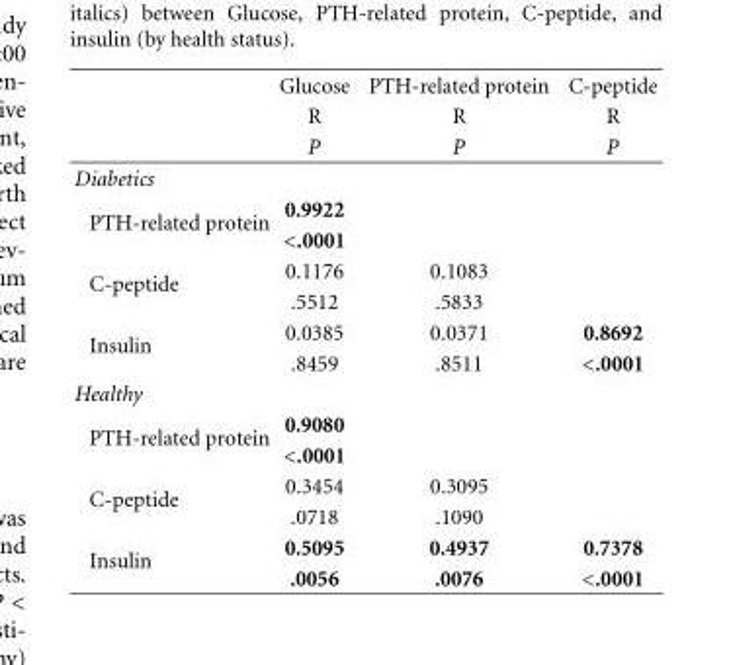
<table><thead><tr><td rowspan="3"></td><td rowspan="3">Glucose R P</td><td rowspan="3">PTH-related protein R P</td><td rowspan="3">C-peptide R P</td></tr><tr></tr><tr></tr></thead><tbody><tr><td colspan="4">Diabetics</td></tr><tr><td rowspan="2">PTH-related protein</td><td>0.9922</td><td></td><td></td></tr><tr><td>&lt;.0001</td><td></td><td></td></tr><tr><td rowspan="2">C-peptide</td><td>0.1176</td><td>0.1083</td><td></td></tr><tr><td>.5512</td><td>.5833</td><td></td></tr><tr><td rowspan="2">Insulin</td><td>0.0385</td><td>0.0371</td><td>0.8692</td></tr><tr><td>.8459</td><td>.8511</td><td>&lt;.0001</td></tr><tr><td colspan="4">Healthy</td></tr><tr><td rowspan="2">PTH-related protein</td><td>0.9080</td><td></td><td></td></tr><tr><td>&lt;.0001</td><td></td><td></td></tr><tr><td rowspan="2">C-peptide</td><td>0.3454</td><td>0.3095</td><td></td></tr><tr><td>.0718</td><td>.1090</td><td></td></tr><tr><td rowspan="2">Insulin</td><td>0.5095</td><td>0.4937</td><td>0.7378</td></tr><tr><td>.0056</td><td>.0076</td><td>&lt;.0001</td></tr></tbody></table>